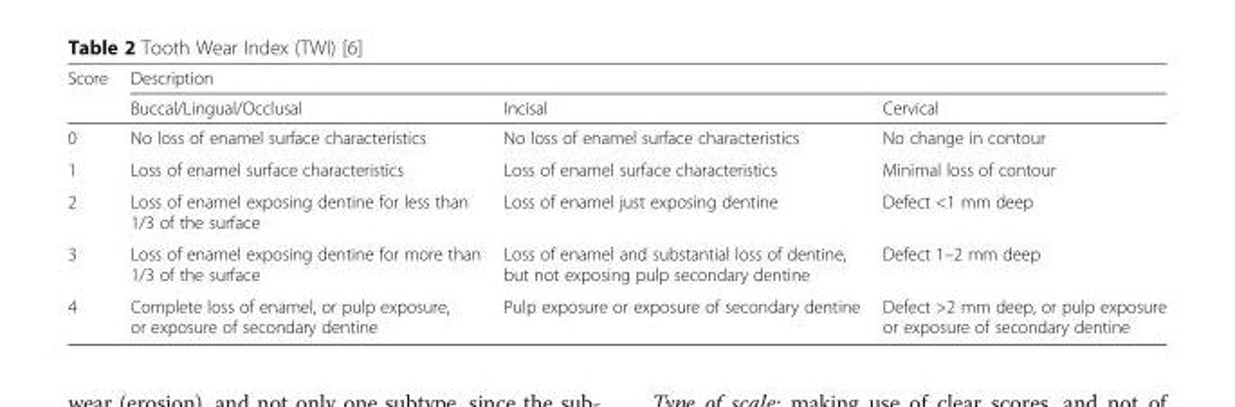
<table><thead><tr><td rowspan="2">Score</td><td colspan="3">Description</td></tr><tr><td>Buccal/Lingual/Occlusal</td><td>Incisal</td><td>Cervical</td></tr></thead><tbody><tr><td>0</td><td>No loss of enamel surface characteristics</td><td>No loss of enamel surface characteristics</td><td>No change in contour</td></tr><tr><td>1</td><td>Loss of enamel surface characteristics</td><td>Loss of enamel surface characteristics</td><td>Minimal loss of contour</td></tr><tr><td>2</td><td>Loss of enamel exposing dentine for less than 1/3 of the surface</td><td>Loss of enamel just exposing dentine</td><td>Defect &lt;1 mm deep</td></tr><tr><td>3</td><td>Loss of enamel exposing dentine for more than 1/3 of the surface</td><td>Loss of enamel and substantial loss of dentine, but not exposing pulp secondary dentine</td><td>Defect 1–2 mm deep</td></tr><tr><td>4</td><td>Complete loss of enamel, or pulp exposure, or exposure of secondary dentine</td><td>Pulp exposure or exposure of secondary dentine</td><td>Defect &gt;2 mm deep, or pulp exposure or exposure of secondary dentine</td></tr></tbody></table>